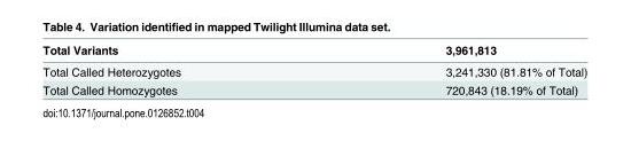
<table><thead><tr><td>Total Variants</td><td>3,961,813</td></tr></thead><tbody><tr><td>Total Called Heterozygotes</td><td>3,241,330 (81.81% of Total)</td></tr><tr><td>Total Called Homozygotes</td><td>720,843 (18.19% of Total)</td></tr></tbody></table>